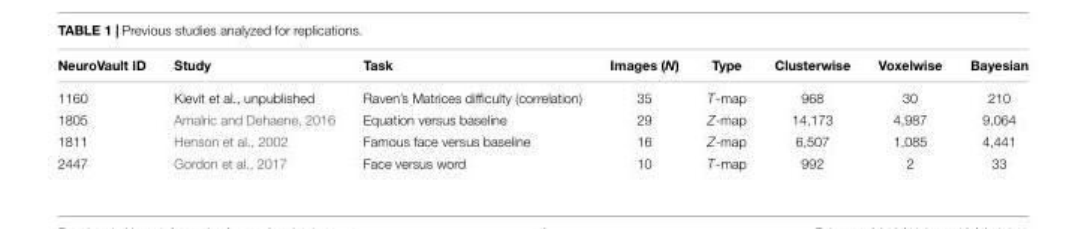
<table><thead><tr><td>NeuroVault ID</td><td>Study</td><td>Task</td><td>Images (N)</td><td>Type</td><td>Clusterwise</td><td>Voxelwise</td><td>Bayesian</td></tr></thead><tbody><tr><td>1160</td><td>Kievit et al., unpublished</td><td>Raven’s Matrices difficulty (correlation)</td><td>35</td><td>T-map</td><td>968</td><td>30</td><td>210</td></tr><tr><td>1805</td><td>Amalric and Dehaene, 2016</td><td>Equation versus baseline</td><td>29</td><td>Z-map</td><td>14,173</td><td>4,987</td><td>9,064</td></tr><tr><td>1811</td><td>Henson et al., 2002</td><td>Famous face versus baseline</td><td>16</td><td>Z-map</td><td>6,507</td><td>1,085</td><td>4,441</td></tr><tr><td>2447</td><td>Gordon et al., 2017</td><td>Face versus word</td><td>10</td><td>T-map</td><td>992</td><td>2</td><td>33</td></tr></tbody></table>